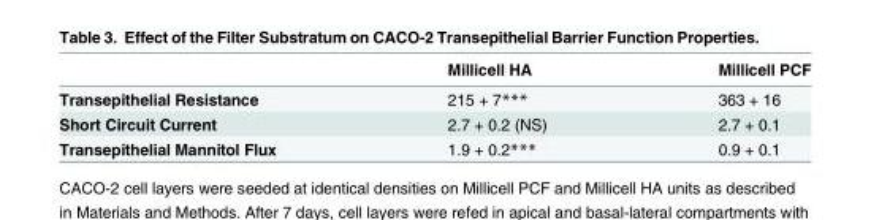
<table><thead><tr><td></td><td>Millicell HA</td><td>Millicell PCF</td></tr></thead><tbody><tr><td>Transepithelial Resistance</td><td>215 + 7***</td><td>363 + 16</td></tr><tr><td>Short Circuit Current</td><td>2.7 + 0.2 (NS)</td><td>2.7 + 0.1</td></tr><tr><td>Transepithelial Mannitol Flux</td><td>1.9 + 0.2***</td><td>0.9 + 0.1</td></tr></tbody></table>